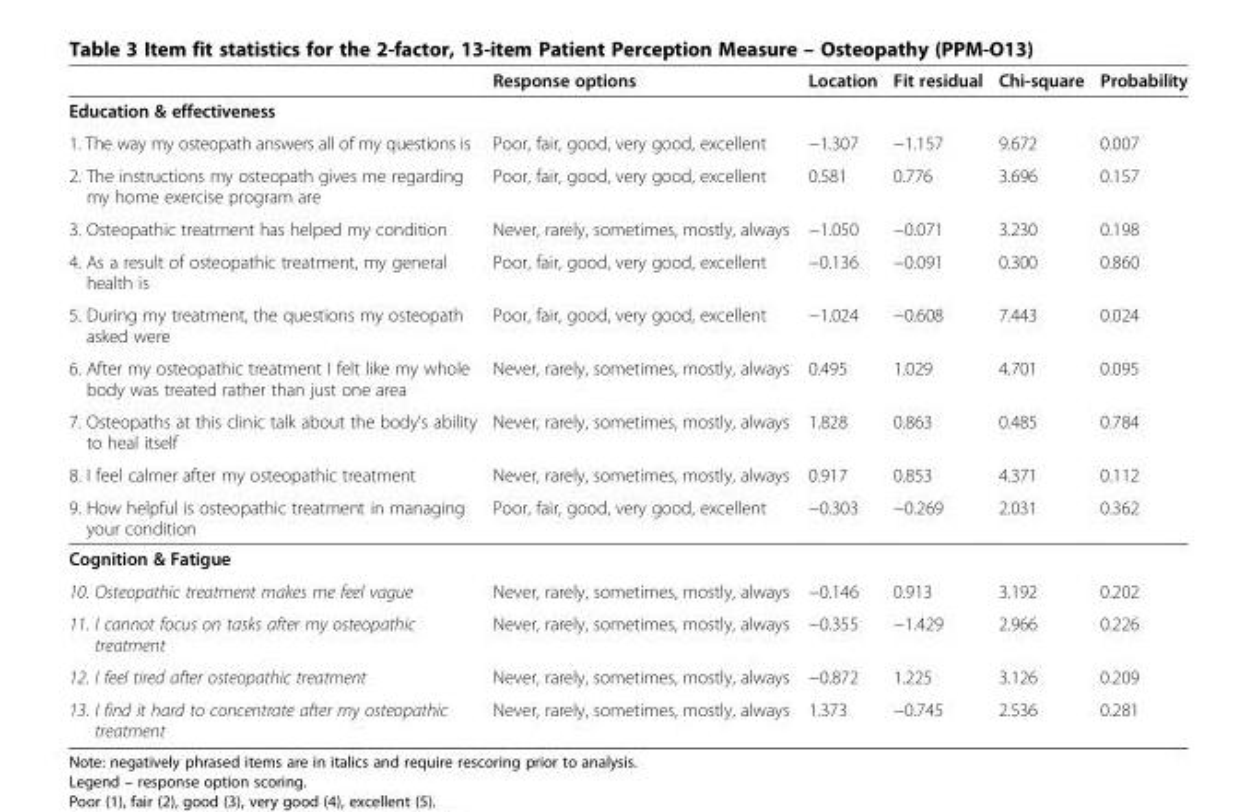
<table><thead><tr><td></td><td>Response options</td><td>Location</td><td>Fit residual</td><td>Chi-square</td><td>Probability</td></tr></thead><tbody><tr><td colspan="6">Education &amp; effectiveness</td></tr><tr><td>1. The way my osteopath answers all of my questions is</td><td>Poor, fair, good, very good, excellent</td><td>−1.307</td><td>−1.157</td><td>9.672</td><td>0.007</td></tr><tr><td>2. The instructions my osteopath gives me regarding my home exercise program are</td><td>Poor, fair, good, very good, excellent</td><td>0.581</td><td>0.776</td><td>3.696</td><td>0.157</td></tr><tr><td>3. Osteopathic treatment has helped my condition</td><td>Never, rarely, sometimes, mostly, always</td><td>−1.050</td><td>−0.071</td><td>3.230</td><td>0.198</td></tr><tr><td>4. As a result of osteopathic treatment, my general health is</td><td>Poor, fair, good, very good, excellent</td><td>−0.136</td><td>−0.091</td><td>0.300</td><td>0.860</td></tr><tr><td>5. During my treatment, the questions my osteopath asked were</td><td>Poor, fair, good, very good, excellent</td><td>−1.024</td><td>−0.608</td><td>7.443</td><td>0.024</td></tr><tr><td>6. After my osteopathic treatment I felt like my whole body was treated rather than just one area</td><td>Never, rarely, sometimes, mostly, always</td><td>0.495</td><td>1.029</td><td>4.701</td><td>0.095</td></tr><tr><td>7. Osteopaths at this clinic talk about the body’s ability to heal itself</td><td>Never, rarely, sometimes, mostly, always</td><td>1.828</td><td>0.863</td><td>0.485</td><td>0.784</td></tr><tr><td>8. I feel calmer after my osteopathic treatment</td><td>Never, rarely, sometimes, mostly, always</td><td>0.917</td><td>0.853</td><td>4.371</td><td>0.112</td></tr><tr><td>9. How helpful is osteopathic treatment in managing your condition</td><td>Poor, fair, good, very good, excellent</td><td>−0.303</td><td>−0.269</td><td>2.031</td><td>0.362</td></tr><tr><td colspan="6">Cognition &amp; Fatigue</td></tr><tr><td>10. Osteopathic treatment makes me feel vague</td><td>Never, rarely, sometimes, mostly, always</td><td>−0.146</td><td>0.913</td><td>3.192</td><td>0.202</td></tr><tr><td>11. I cannot focus on tasks after my osteopathic treatment</td><td>Never, rarely, sometimes, mostly, always</td><td>−0.355</td><td>−1.429</td><td>2.966</td><td>0.226</td></tr><tr><td>12. I feel tired after osteopathic treatment</td><td>Never, rarely, sometimes, mostly, always</td><td>−0.872</td><td>1.225</td><td>3.126</td><td>0.209</td></tr><tr><td>13. I find it hard to concentrate after my osteopathic treatment</td><td>Never, rarely, sometimes, mostly, always</td><td>1.373</td><td>−0.745</td><td>2.536</td><td>0.281</td></tr></tbody></table>